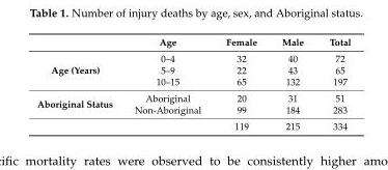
<table><thead><tr><td></td><td>Age</td><td>Female</td><td>Male</td><td>Total</td></tr></thead><tbody><tr><td rowspan="3">Age (Years)</td><td>0–4</td><td>32</td><td>40</td><td>72</td></tr><tr><td>5–9</td><td>22</td><td>43</td><td>65</td></tr><tr><td>10–15</td><td>65</td><td>132</td><td>197</td></tr><tr><td rowspan="2">Aboriginal Status</td><td>Aboriginal</td><td>20</td><td>31</td><td>51</td></tr><tr><td>Non-Aboriginal</td><td>99</td><td>184</td><td>283</td></tr><tr><td colspan="2"></td><td>119</td><td>215</td><td>334</td></tr></tbody></table>